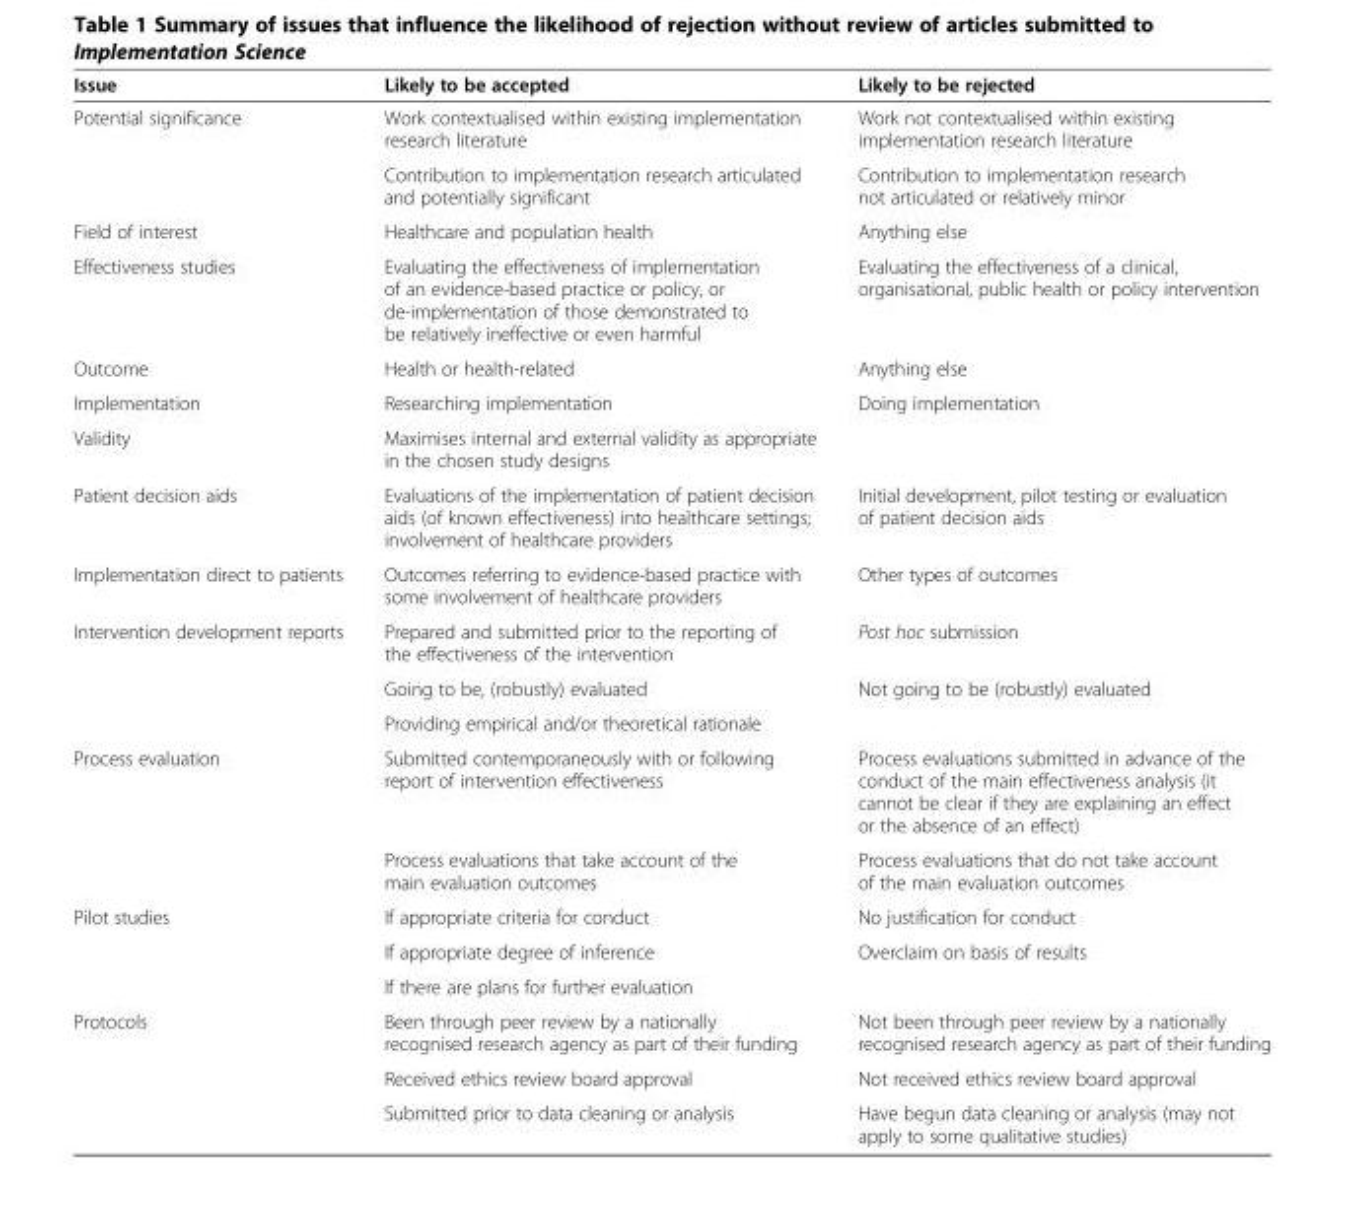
<table><thead><tr><td>Issue</td><td>Likely to be accepted</td><td>Likely to be rejected</td></tr></thead><tbody><tr><td rowspan="2">Potential significance</td><td>Work contextualised within existing implementation research literature</td><td>Work not contextualised within existing implementation research literature</td></tr><tr><td>Contribution to implementation research articulated and potentially significant</td><td>Contribution to implementation research not articulated or relatively minor</td></tr><tr><td>Field of interest</td><td>Healthcare and population health</td><td>Anything else</td></tr><tr><td>Effectiveness studies</td><td>Evaluating the effectiveness of implementation of an evidence-based practice or policy, or de-implementation of those demonstrated to be relatively ineffective or even harmful</td><td>Evaluating the effectiveness of a clinical, organisational, public health or policy intervention</td></tr><tr><td>Outcome</td><td>Health or health-related</td><td>Anything else</td></tr><tr><td>Implementation</td><td>Researching implementation</td><td>Doing implementation</td></tr><tr><td>Validity</td><td>Maximises internal and external validity as appropriate in the chosen study designs</td><td></td></tr><tr><td>Patient decision aids</td><td>Evaluations of the implementation of patient decision aids (of known effectiveness) into healthcare settings; involvement of healthcare providers</td><td>Initial development, pilot testing or evaluation of patient decision aids</td></tr><tr><td>Implementation direct to patients</td><td>Outcomes referring to evidence-based practice with some involvement of healthcare providers</td><td>Other types of outcomes</td></tr><tr><td rowspan="3">Intervention development reports</td><td>Prepared and submitted prior to the reporting of the effectiveness of the intervention</td><td>Post hoc submission</td></tr><tr><td>Going to be, (robustly) evaluated</td><td rowspan="2">Not going to be (robustly) evaluated</td></tr><tr><td>Providing empirical and/or theoretical rationale</td></tr><tr><td rowspan="2">Process evaluation</td><td>Submitted contemporaneously with or following report of intervention effectiveness</td><td>Process evaluations submitted in advance of the conduct of the main effectiveness analysis (it cannot be clear if they are explaining an effect or the absence of an effect)</td></tr><tr><td>Process evaluations that take account of the main evaluation outcomes</td><td>Process evaluations that do not take account of the main evaluation outcomes</td></tr><tr><td rowspan="3">Pilot studies</td><td>If appropriate criteria for conduct</td><td>No justification for conduct</td></tr><tr><td>If appropriate degree of inference</td><td rowspan="2">Overclaim on basis of results</td></tr><tr><td>If there are plans for further evaluation</td></tr><tr><td rowspan="3">Protocols</td><td>Been through peer review by a nationally recognised research agency as part of their funding</td><td>Not been through peer review by a nationally recognised research agency as part of their funding</td></tr><tr><td>Received ethics review board approval</td><td>Not received ethics review board approval</td></tr><tr><td>Submitted prior to data cleaning or analysis</td><td>Have begun data cleaning or analysis (may not apply to some qualitative studies)</td></tr></tbody></table>